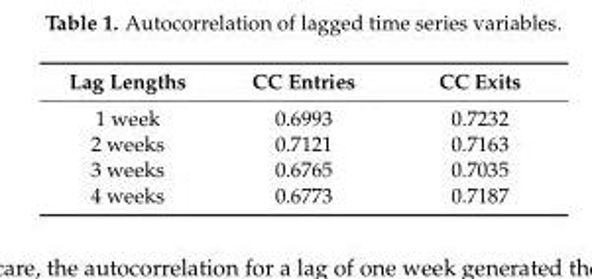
<table><thead><tr><td>Lag Lengths</td><td>CC Entries</td><td>CC Exits</td></tr></thead><tbody><tr><td>1 week</td><td>0.6993</td><td>0.7232</td></tr><tr><td>2 weeks</td><td>0.7121</td><td>0.7163</td></tr><tr><td>3 weeks</td><td>0.6765</td><td>0.7035</td></tr><tr><td>4 weeks</td><td>0.6773</td><td>0.7187</td></tr></tbody></table>